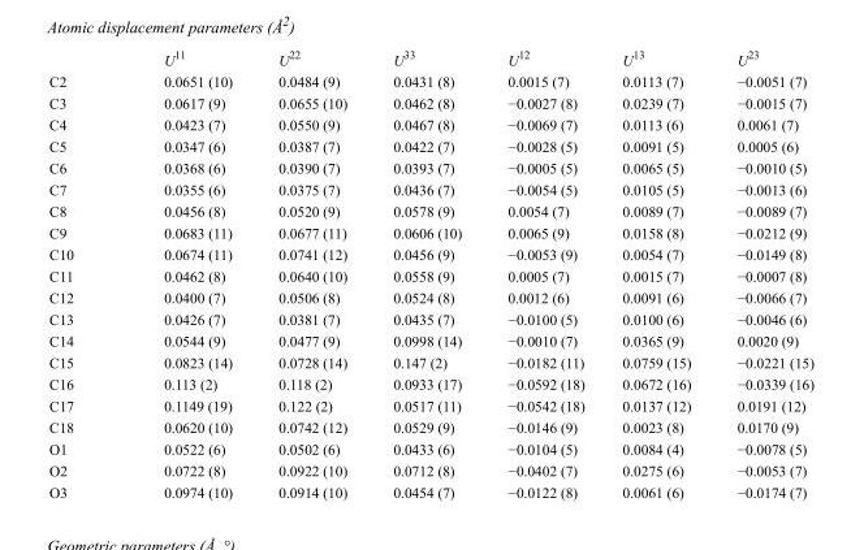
<table><thead><tr><td></td><td>U<sup>11</sup></td><td>U<sup>22</sup></td><td>U<sup>33</sup></td><td>U<sup>12</sup></td><td>U<sup>13</sup></td><td>U<sup>23</sup></td></tr></thead><tbody><tr><td>C2</td><td>0.0651 (10)</td><td>0.0484 (9)</td><td>0.0431 (8)</td><td>0.0015 (7)</td><td>0.0113 (7)</td><td>−0.0051 (7)</td></tr><tr><td>C3</td><td>0.0617 (9)</td><td>0.0655 (10)</td><td>0.0462 (8)</td><td>−0.0027 (8)</td><td>0.0239 (7)</td><td>−0.0015 (7)</td></tr><tr><td>C4</td><td>0.0423 (7)</td><td>0.0550 (9)</td><td>0.0467 (8)</td><td>−0.0069 (7)</td><td>0.0113 (6)</td><td>0.0061 (7)</td></tr><tr><td>C5</td><td>0.0347 (6)</td><td>0.0387 (7)</td><td>0.0422 (7)</td><td>−0.0028 (5)</td><td>0.0091 (5)</td><td>0.0005 (6)</td></tr><tr><td>C6</td><td>0.0368 (6)</td><td>0.0390 (7)</td><td>0.0393 (7)</td><td>−0.0005 (5)</td><td>0.0065 (5)</td><td>−0.0010 (5)</td></tr><tr><td>C7</td><td>0.0355 (6)</td><td>0.0375 (7)</td><td>0.0436 (7)</td><td>−0.0054 (5)</td><td>0.0105 (5)</td><td>−0.0013 (6)</td></tr><tr><td>C8</td><td>0.0456 (8)</td><td>0.0520 (9)</td><td>0.0578 (9)</td><td>0.0054 (7)</td><td>0.0089 (7)</td><td>−0.0089 (7)</td></tr><tr><td>C9</td><td>0.0683 (11)</td><td>0.0677 (11)</td><td>0.0606 (10)</td><td>0.0065 (9)</td><td>0.0158 (8)</td><td>−0.0212 (9)</td></tr><tr><td>C10</td><td>0.0674 (11)</td><td>0.0741 (12)</td><td>0.0456 (9)</td><td>−0.0053 (9)</td><td>0.0054 (7)</td><td>−0.0149 (8)</td></tr><tr><td>C11</td><td>0.0462 (8)</td><td>0.0640 (10)</td><td>0.0558 (9)</td><td>0.0005 (7)</td><td>0.0015 (7)</td><td>−0.0007 (8)</td></tr><tr><td>C12</td><td>0.0400 (7)</td><td>0.0506 (8)</td><td>0.0524 (8)</td><td>0.0012 (6)</td><td>0.0091 (6)</td><td>−0.0066 (7)</td></tr><tr><td>C13</td><td>0.0426 (7)</td><td>0.0381 (7)</td><td>0.0435 (7)</td><td>−0.0100 (5)</td><td>0.0100 (6)</td><td>−0.0046 (6)</td></tr><tr><td>C14</td><td>0.0544 (9)</td><td>0.0477 (9)</td><td>0.0998 (14)</td><td>−0.0010 (7)</td><td>0.0365 (9)</td><td>0.0020 (9)</td></tr><tr><td>C15</td><td>0.0823 (14)</td><td>0.0728 (14)</td><td>0.147 (2)</td><td>−0.0182 (11)</td><td>0.0759 (15)</td><td>−0.0221 (15)</td></tr><tr><td>C16</td><td>0.113 (2)</td><td>0.118 (2)</td><td>0.0933 (17)</td><td>−0.0592 (18)</td><td>0.0672 (16)</td><td>−0.0339 (16)</td></tr><tr><td>C17</td><td>0.1149 (19)</td><td>0.122 (2)</td><td>0.0517 (11)</td><td>−0.0542 (18)</td><td>0.0137 (12)</td><td>0.0191 (12)</td></tr><tr><td>C18</td><td>0.0620 (10)</td><td>0.0742 (12)</td><td>0.0529 (9)</td><td>−0.0146 (9)</td><td>0.0023 (8)</td><td>0.0170 (9)</td></tr><tr><td>O1</td><td>0.0522 (6)</td><td>0.0502 (6)</td><td>0.0433 (6)</td><td>−0.0104 (5)</td><td>0.0084 (4)</td><td>−0.0078 (5)</td></tr><tr><td>O2</td><td>0.0722 (8)</td><td>0.0922 (10)</td><td>0.0712 (8)</td><td>−0.0402 (7)</td><td>0.0275 (6)</td><td>−0.0053 (7)</td></tr><tr><td>O3</td><td>0.0974 (10)</td><td>0.0914 (10)</td><td>0.0454 (7)</td><td>−0.0122 (8)</td><td>0.0061 (6)</td><td>−0.0174 (7)</td></tr></tbody></table>